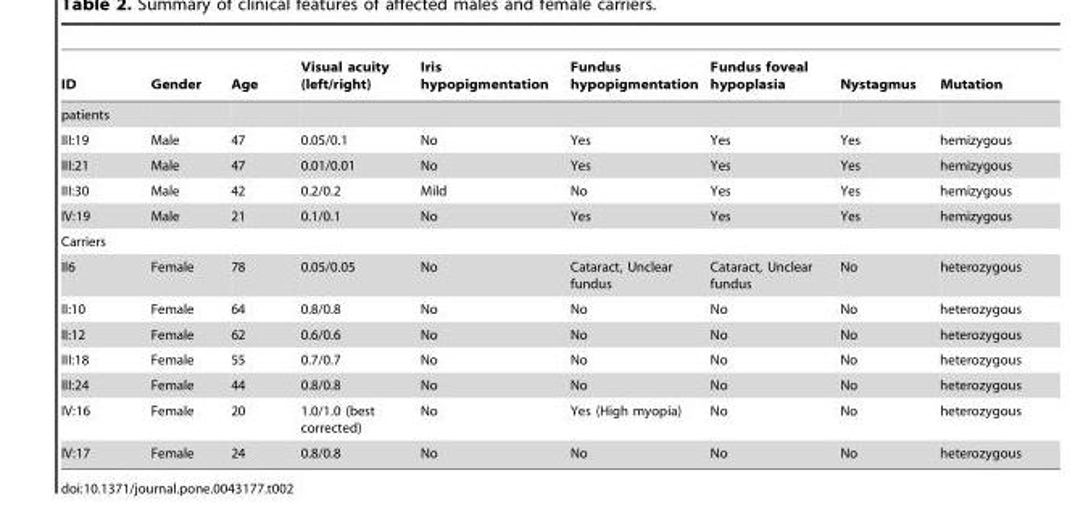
<table><thead><tr><td>ID</td><td>Gender</td><td>Age</td><td>Visual acuity (left/right)</td><td>Iris hypopigmentation</td><td>Fundus hypopigmentation</td><td>Fundus foveal hypoplasia</td><td>Nystagmus</td><td>Mutation</td></tr></thead><tbody><tr><td colspan="9">patients</td></tr><tr><td>III:19</td><td>Male</td><td>47</td><td>0.05/0.1</td><td>No</td><td>Yes</td><td>Yes</td><td>Yes</td><td>hemizygous</td></tr><tr><td>III:21</td><td>Male</td><td>47</td><td>0.01/0.01</td><td>No</td><td>Yes</td><td>Yes</td><td>Yes</td><td>hemizygous</td></tr><tr><td>III:30</td><td>Male</td><td>42</td><td>0.2/0.2</td><td>Mild</td><td>No</td><td>Yes</td><td>Yes</td><td>hemizygous</td></tr><tr><td>IV:19</td><td>Male</td><td>21</td><td>0.1/0.1</td><td>No</td><td>Yes</td><td>Yes</td><td>Yes</td><td>hemizygous</td></tr><tr><td colspan="9">Carriers</td></tr><tr><td>II6</td><td>Female</td><td>78</td><td>0.05/0.05</td><td>No</td><td>Cataract, Unclear fundus</td><td>Cataract, Unclear fundus</td><td>No</td><td>heterozygous</td></tr><tr><td>II:10</td><td>Female</td><td>64</td><td>0.8/0.8</td><td>No</td><td>No</td><td>No</td><td>No</td><td>heterozygous</td></tr><tr><td>II:12</td><td>Female</td><td>62</td><td>0.6/0.6</td><td>No</td><td>No</td><td>No</td><td>No</td><td>heterozygous</td></tr><tr><td>III:18</td><td>Female</td><td>55</td><td>0.7/0.7</td><td>No</td><td>No</td><td>No</td><td>No</td><td>heterozygous</td></tr><tr><td>III:24</td><td>Female</td><td>44</td><td>0.8/0.8</td><td>No</td><td>No</td><td>No</td><td>No</td><td>heterozygous</td></tr><tr><td>IV:16</td><td>Female</td><td>20</td><td>1.0/1.0 (best corrected)</td><td>No</td><td>Yes (High myopia)</td><td>No</td><td>No</td><td>heterozygous</td></tr><tr><td>IV:17</td><td>Female</td><td>24</td><td>0.8/0.8</td><td>No</td><td>No</td><td>No</td><td>No</td><td>heterozygous</td></tr></tbody></table>